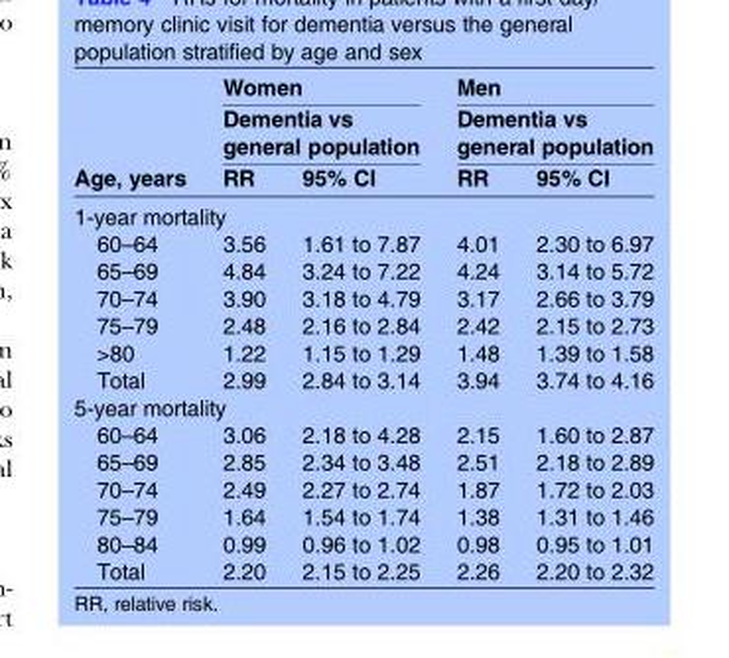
<table><thead><tr><td rowspan="3">Age, years</td><td rowspan="2" colspan="2">Women Dementia vs general population</td><td rowspan="2" colspan="2">Men Dementia vs general population</td></tr><tr></tr><tr><td>RR</td><td>95% CI</td><td>RR</td><td>95% CI</td></tr></thead><tbody><tr><td colspan="5">1-year mortality</td></tr><tr><td>60–64</td><td>3.56</td><td>1.61 to 7.87</td><td>4.01</td><td>2.30 to 6.97</td></tr><tr><td>65–69</td><td>4.84</td><td>3.24 to 7.22</td><td>4.24</td><td>3.14 to 5.72</td></tr><tr><td>70–74</td><td>3.90</td><td>3.18 to 4.79</td><td>3.17</td><td>2.66 to 3.79</td></tr><tr><td>75–79</td><td>2.48</td><td>2.16 to 2.84</td><td>2.42</td><td>2.15 to 2.73</td></tr><tr><td>&gt;80</td><td>1.22</td><td>1.15 to 1.29</td><td>1.48</td><td>1.39 to 1.58</td></tr><tr><td>Total</td><td>2.99</td><td>2.84 to 3.14</td><td>3.94</td><td>3.74 to 4.16</td></tr><tr><td colspan="5">5-year mortality</td></tr><tr><td>60–64</td><td>3.06</td><td>2.18 to 4.28</td><td>2.15</td><td>1.60 to 2.87</td></tr><tr><td>65–69</td><td>2.85</td><td>2.34 to 3.48</td><td>2.51</td><td>2.18 to 2.89</td></tr><tr><td>70–74</td><td>2.49</td><td>2.27 to 2.74</td><td>1.87</td><td>1.72 to 2.03</td></tr><tr><td>75–79</td><td>1.64</td><td>1.54 to 1.74</td><td>1.38</td><td>1.31 to 1.46</td></tr><tr><td>80–84</td><td>0.99</td><td>0.96 to 1.02</td><td>0.98</td><td>0.95 to 1.01</td></tr><tr><td>Total</td><td>2.20</td><td>2.15 to 2.25</td><td>2.26</td><td>2.20 to 2.32</td></tr></tbody></table>